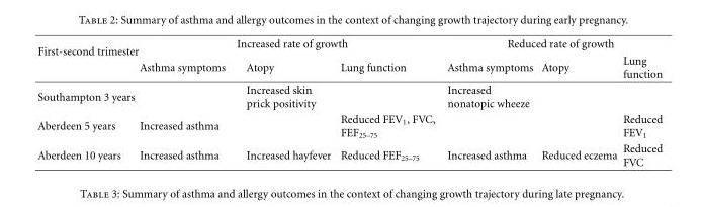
<table><tbody><tr><td rowspan="2">First-second trimester</td><td colspan="3">Increased rate of growth</td><td colspan="3">Reduced rate of growth</td></tr><tr><td>Asthma symptoms</td><td>Atopy</td><td>Lung function</td><td>Asthma symptoms</td><td>Atopy</td><td>Lung function</td></tr><tr><td>Southampton 3 years</td><td></td><td>Increased skin prick positivity</td><td></td><td>Increased nonatopic wheeze</td><td></td><td></td></tr><tr><td>Aberdeen 5 years</td><td>Increased asthma</td><td></td><td>Reduced FEV<sub>1</sub>, FVC, FEF<sub>25–75</sub></td><td></td><td></td><td>Reduced FEV<sub>1</sub></td></tr><tr><td>Aberdeen 10 years</td><td>Increased asthma</td><td>Increased hayfever</td><td>Reduced FEF<sub>25–75</sub></td><td>Increased asthma</td><td>Reduced eczema</td><td>Reduced FVC</td></tr></tbody></table>